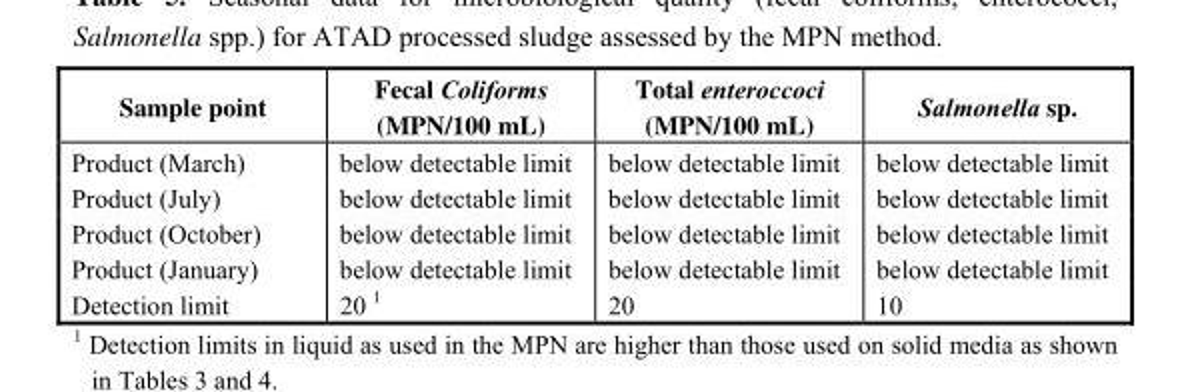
<table><thead><tr><td>Sample point</td><td>Fecal Coliforms (MPN/100 mL)</td><td>Total enteroccoci (MPN/100 mL)</td><td>Salmonella sp.</td></tr></thead><tbody><tr><td>Product (March)</td><td>below detectable limit</td><td>below detectable limit</td><td>below detectable limit</td></tr><tr><td>Product (July)</td><td>below detectable limit</td><td>below detectable limit</td><td>below detectable limit</td></tr><tr><td>Product (October)</td><td>below detectable limit</td><td>below detectable limit</td><td>below detectable limit</td></tr><tr><td>Product (January)</td><td>below detectable limit</td><td>below detectable limit</td><td>below detectable limit</td></tr><tr><td>Detection limit</td><td>20 1</td><td>20</td><td>10</td></tr></tbody></table>